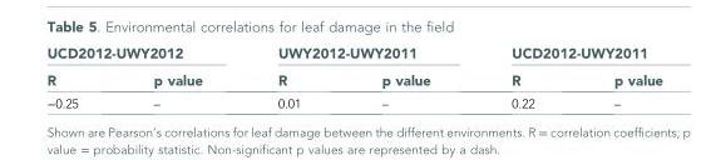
<table><thead><tr><td colspan="2">UCD2012-UWY2012</td><td colspan="2">UWY2012-UWY2011</td><td colspan="2">UCD2012-UWY2011</td></tr><tr><td>R</td><td>p value</td><td>R</td><td>p value</td><td>R</td><td>p value</td></tr></thead><tbody><tr><td>−0.25</td><td>–</td><td>0.01</td><td>–</td><td>0.22</td><td>–</td></tr></tbody></table>